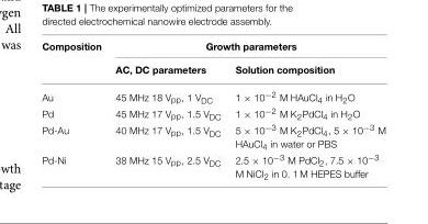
<table><thead><tr><td rowspan="2">Composition</td><td colspan="2">Growth parameters</td></tr><tr><td>AC, DC parameters</td><td>Solution composition</td></tr></thead><tbody><tr><td>Au</td><td>45 MHz 18 V<sub>pp</sub>, 1 V<sub>DC</sub></td><td>1 × 10<sup>−2</sup> M HAuCl<sub>4</sub> in H<sub>2</sub>O</td></tr><tr><td>Pd</td><td>45 MHz 17 V<sub>pp</sub>, 1.5 V<sub>DC</sub></td><td>1 × 10<sup>−2</sup> M K<sub>2</sub>PdCl<sub>4</sub> in H<sub>2</sub>O</td></tr><tr><td>Pd-Au</td><td>40 MHz 17 V<sub>pp</sub>, 1.5 V<sub>DC</sub></td><td>5 × 10<sup>−3</sup> M K<sub>2</sub>PdCl<sub>4</sub>, 5 × 10<sup>−3</sup> M HAuCl<sub>4</sub> in water or PBS</td></tr><tr><td>Pd-Ni</td><td>38 MHz 15 V<sub>pp</sub>, 2.5 V<sub>DC</sub></td><td>2.5 × 10<sup>−3</sup> M PdCl<sub>2</sub>, 7.5 × 10<sup>−3</sup> M NiCl<sub>2</sub> in 0. 1 M HEPES buffer</td></tr></tbody></table>